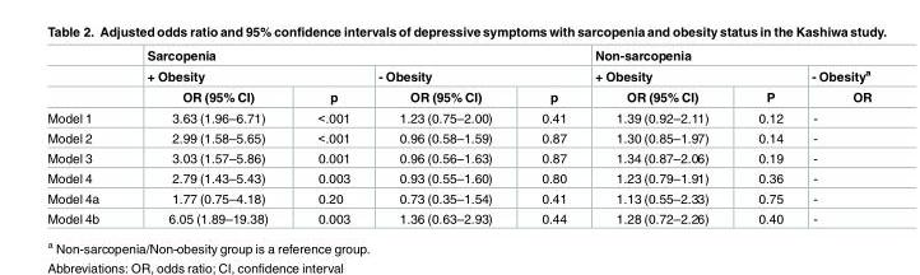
<table><thead><tr><td rowspan="3"></td><td colspan="4">Sarcopenia</td><td colspan="3">Non-sarcopenia</td></tr><tr><td colspan="2">+ Obesity</td><td colspan="2">- Obesity</td><td colspan="2">+ Obesity</td><td rowspan="2">- Obesity<sup>a</sup> OR</td></tr><tr><td>OR (95% CI)</td><td>p</td><td>OR (95% CI)</td><td>p</td><td>OR (95% CI)</td><td>P</td></tr></thead><tbody><tr><td>Model 1</td><td>3.63 (1.96–6.71)</td><td>&lt;.001</td><td>1.23 (0.75–2.00)</td><td>0.41</td><td>1.39 (0.92–2.11)</td><td>0.12</td><td>-</td></tr><tr><td>Model 2</td><td>2.99 (1.58–5.65)</td><td>&lt;.001</td><td>0.96 (0.58–1.59)</td><td>0.87</td><td>1.30 (0.85–1.97)</td><td>0.14</td><td>-</td></tr><tr><td>Model 3</td><td>3.03 (1.57–5.86)</td><td>0.001</td><td>0.96 (0.56–1.63)</td><td>0.87</td><td>1.34 (0.87–2.06)</td><td>0.19</td><td>-</td></tr><tr><td>Model 4</td><td>2.79 (1.43–5.43)</td><td>0.003</td><td>0.93 (0.55–1.60)</td><td>0.80</td><td>1.23 (0.79–1.91)</td><td>0.36</td><td>-</td></tr><tr><td>Model 4a</td><td>1.77 (0.75–4.18)</td><td>0.20</td><td>0.73 (0.35–1.54)</td><td>0.41</td><td>1.13 (0.55–2.33)</td><td>0.75</td><td>-</td></tr><tr><td>Model 4b</td><td>6.05 (1.89–19.38)</td><td>0.003</td><td>1.36 (0.63–2.93)</td><td>0.44</td><td>1.28 (0.72–2.26)</td><td>0.40</td><td>-</td></tr></tbody></table>